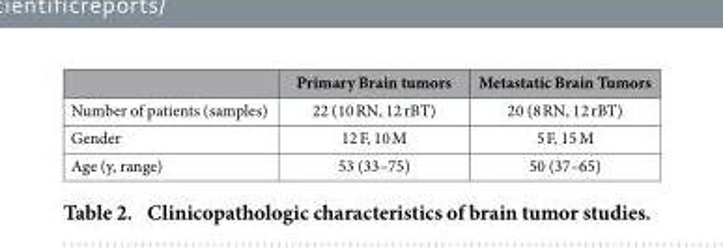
<table><thead><tr><td></td><td>Primary Brain tumors</td><td>Metastatic Brain Tumors</td></tr></thead><tbody><tr><td>Number of patients (samples)</td><td>22 (10 RN, 12 rBT)</td><td>20 (8 RN, 12 rBT)</td></tr><tr><td>Gender</td><td>12 F, 10 M</td><td>5 F, 15 M</td></tr><tr><td>Age (y, range)</td><td>53 (33–75)</td><td>50 (37–65)</td></tr></tbody></table>